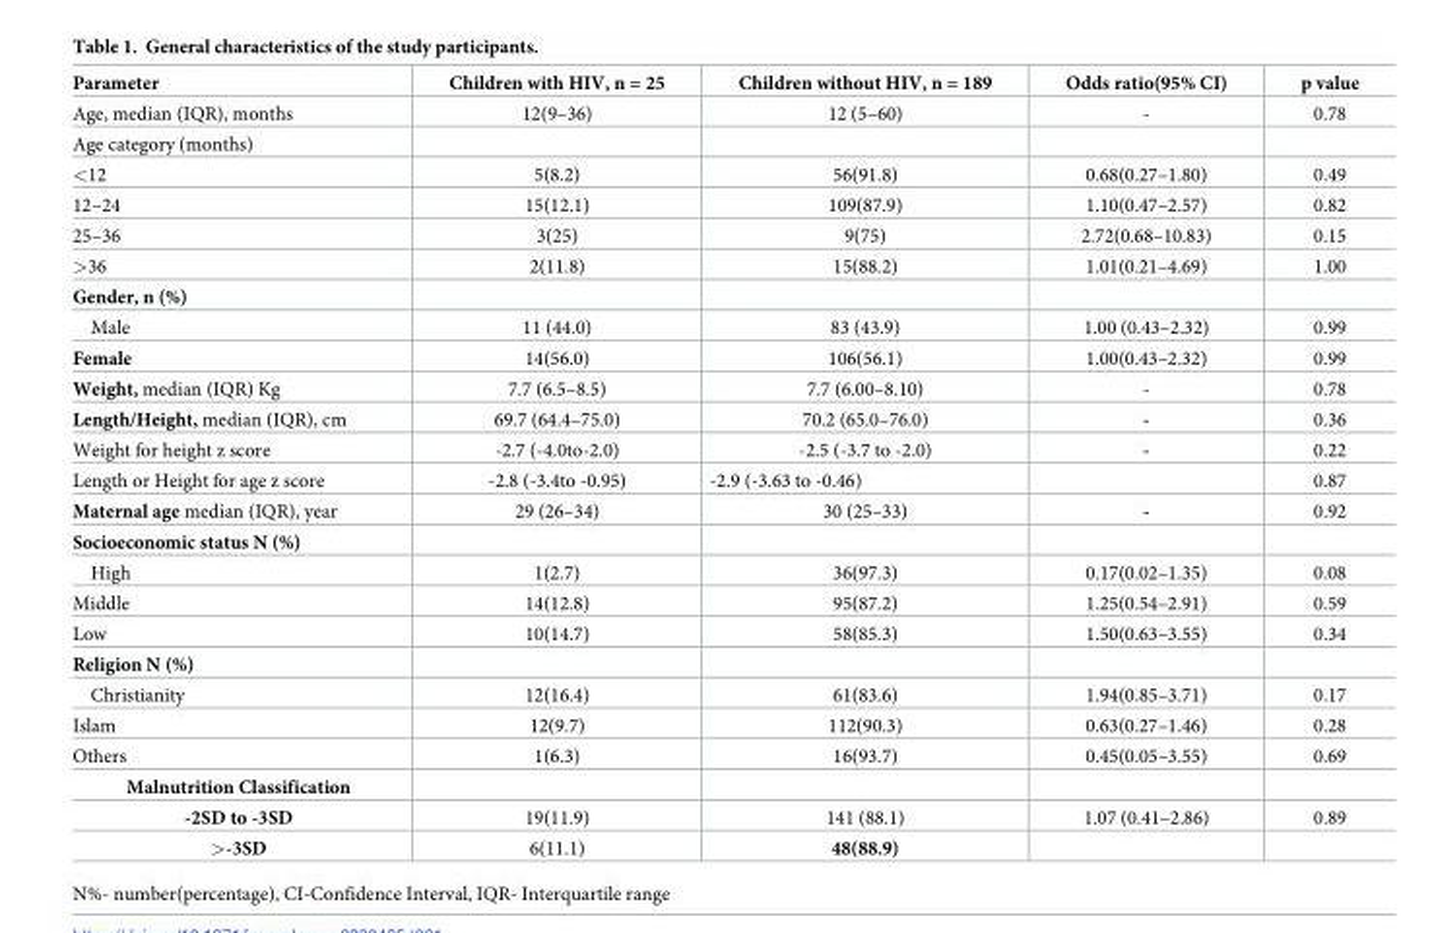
<table><thead><tr><td>Parameter</td><td>Children with HIV, n = 25</td><td>Children without HIV, n = 189</td><td>Odds ratio(95% CI)</td><td>p value</td></tr></thead><tbody><tr><td>Age, median (IQR), months</td><td>12(9–36)</td><td>12 (5–60)</td><td>-</td><td>0.78</td></tr><tr><td colspan="5">Age category (months)</td></tr><tr><td>&lt;12</td><td>5(8.2)</td><td>56(91.8)</td><td>0.68(0.27–1.80)</td><td>0.49</td></tr><tr><td>12–24</td><td>15(12.1)</td><td>109(87.9)</td><td>1.10(0.47–2.57)</td><td>0.82</td></tr><tr><td>25–36</td><td>3(25)</td><td>9(75)</td><td>2.72(0.68–10.83)</td><td>0.15</td></tr><tr><td>&gt;36</td><td>2(11.8)</td><td>15(88.2)</td><td>1.01(0.21–4.69)</td><td>1.00</td></tr><tr><td colspan="5">Gender, n (%)</td></tr><tr><td>Male</td><td>11 (44.0)</td><td>83 (43.9)</td><td>1.00 (0.43–2.32)</td><td>0.99</td></tr><tr><td>Female</td><td>14(56.0)</td><td>106(56.1)</td><td>1.00(0.43–2.32)</td><td>0.99</td></tr><tr><td>Weight, median (IQR) Kg</td><td>7.7 (6.5–8.5)</td><td>7.7 (6.00–8.10)</td><td>-</td><td>0.78</td></tr><tr><td>Length/Height, median (IQR), cm</td><td>69.7 (64.4–75.0)</td><td>70.2 (65.0–76.0)</td><td>-</td><td>0.36</td></tr><tr><td>Weight for height z score</td><td>-2.7 (-4.0to-2.0)</td><td>-2.5 (-3.7 to -2.0)</td><td>-</td><td>0.22</td></tr><tr><td>Length or Height for age z score</td><td>-2.8 (-3.4to -0.95)</td><td>-2.9 (-3.63 to -0.46)</td><td></td><td>0.87</td></tr><tr><td>Maternal age median (IQR), year</td><td>29 (26–34)</td><td>30 (25–33)</td><td>-</td><td>0.92</td></tr><tr><td colspan="5">Socioeconomic status N (%)</td></tr><tr><td>High</td><td>1(2.7)</td><td>36(97.3)</td><td>0.17(0.02–1.35)</td><td>0.08</td></tr><tr><td>Middle</td><td>14(12.8)</td><td>95(87.2)</td><td>1.25(0.54–2.91)</td><td>0.59</td></tr><tr><td>Low</td><td>10(14.7)</td><td>58(85.3)</td><td>1.50(0.63–3.55)</td><td>0.34</td></tr><tr><td colspan="5">Religion N (%)</td></tr><tr><td>Christianity</td><td>12(16.4)</td><td>61(83.6)</td><td>1.94(0.85–3.71)</td><td>0.17</td></tr><tr><td>Islam</td><td>12(9.7)</td><td>112(90.3)</td><td>0.63(0.27–1.46)</td><td>0.28</td></tr><tr><td>Others</td><td>1(6.3)</td><td>16(93.7)</td><td>0.45(0.05–3.55)</td><td>0.69</td></tr><tr><td colspan="5">Malnutrition Classification</td></tr><tr><td>-2SD to -3SD</td><td>19(11.9)</td><td>141 (88.1)</td><td>1.07 (0.41–2.86)</td><td>0.89</td></tr><tr><td>&gt;-3SD</td><td>6(11.1)</td><td>48(88.9)</td><td></td><td></td></tr></tbody></table>